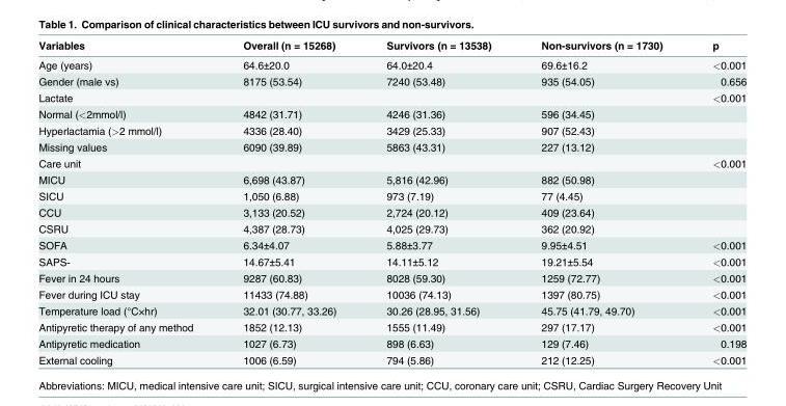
<table><thead><tr><td>Variables</td><td>Overall (n = 15268)</td><td>Survivors (n = 13538)</td><td>Non-survivors (n = 1730)</td><td>p</td></tr></thead><tbody><tr><td>Age (years)</td><td>64.6±20.0</td><td>64.0±20.4</td><td>69.6±16.2</td><td>&lt;0.001</td></tr><tr><td>Gender (male vs)</td><td>8175 (53.54)</td><td>7240 (53.48)</td><td>935 (54.05)</td><td>0.656</td></tr><tr><td>Lactate</td><td></td><td></td><td></td><td>&lt;0.001</td></tr><tr><td>Normal (&lt;2mmol/l)</td><td>4842 (31.71)</td><td>4246 (31.36)</td><td>596 (34.45)</td><td></td></tr><tr><td>Hyperlactamia (&gt;2 mmol/l)</td><td>4336 (28.40)</td><td>3429 (25.33)</td><td>907 (52.43)</td><td></td></tr><tr><td>Missing values</td><td>6090 (39.89)</td><td>5863 (43.31)</td><td>227 (13.12)</td><td></td></tr><tr><td>Care unit</td><td></td><td></td><td></td><td>&lt;0.001</td></tr><tr><td>MICU</td><td>6,698 (43.87)</td><td>5,816 (42.96)</td><td>882 (50.98)</td><td></td></tr><tr><td>SICU</td><td>1,050 (6.88)</td><td>973 (7.19)</td><td>77 (4.45)</td><td></td></tr><tr><td>CCU</td><td>3,133 (20.52)</td><td>2,724 (20.12)</td><td>409 (23.64)</td><td></td></tr><tr><td>CSRU</td><td>4,387 (28.73)</td><td>4,025 (29.73)</td><td>362 (20.92)</td><td></td></tr><tr><td>SOFA</td><td>6.34±4.07</td><td>5.88±3.77</td><td>9.95±4.51</td><td>&lt;0.001</td></tr><tr><td>SAPS-Ⅰ</td><td>14.67±5.41</td><td>14.11±5.12</td><td>19.21±5.54</td><td>&lt;0.001</td></tr><tr><td>Fever in 24 hours</td><td>9287 (60.83)</td><td>8028 (59.30)</td><td>1259 (72.77)</td><td>&lt;0.001</td></tr><tr><td>Fever during ICU stay</td><td>11433 (74.88)</td><td>10036 (74.13)</td><td>1397 (80.75)</td><td>&lt;0.001</td></tr><tr><td>Temperature load (°C×hr)</td><td>32.01 (30.77, 33.26)</td><td>30.26 (28.95, 31.56)</td><td>45.75 (41.79, 49.70)</td><td>&lt;0.001</td></tr><tr><td>Antipyretic therapy of any method</td><td>1852 (12.13)</td><td>1555 (11.49)</td><td>297 (17.17)</td><td>&lt;0.001</td></tr><tr><td>Antipyretic medication</td><td>1027 (6.73)</td><td>898 (6.63)</td><td>129 (7.46)</td><td>0.198</td></tr><tr><td>External cooling</td><td>1006 (6.59)</td><td>794 (5.86)</td><td>212 (12.25)</td><td>&lt;0.001</td></tr></tbody></table>